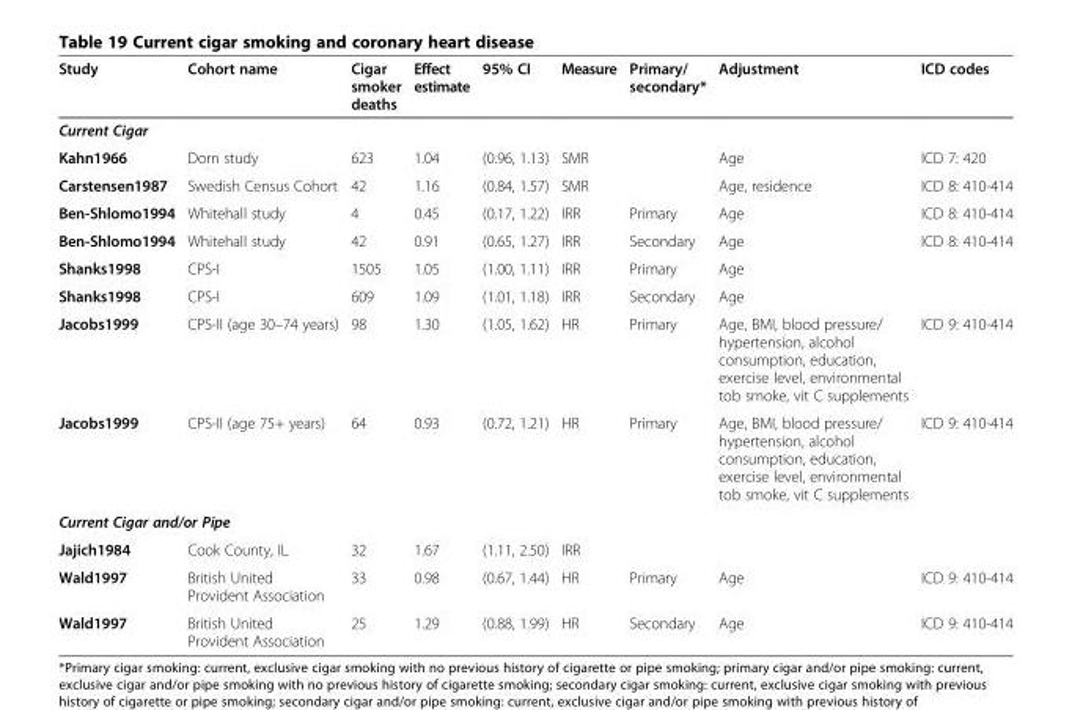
<table><thead><tr><td>Study</td><td>Cohort name</td><td>Cigar smoker deaths</td><td>Effect estimate</td><td>95% CI</td><td>Measure</td><td>Primary/ secondary*</td><td>Adjustment</td><td>ICD codes</td></tr></thead><tbody><tr><td colspan="9">Current Cigar</td></tr><tr><td>Kahn1966</td><td>Dorn study</td><td>623</td><td>1.04</td><td>(0.96, 1.13)</td><td>SMR</td><td></td><td>Age</td><td>ICD 7: 420</td></tr><tr><td>Carstensen1987</td><td>Swedish Census Cohort</td><td>42</td><td>1.16</td><td>(0.84, 1.57)</td><td>SMR</td><td></td><td>Age, residence</td><td>ICD 8: 410-414</td></tr><tr><td>Ben-Shlomo1994</td><td>Whitehall study</td><td>4</td><td>0.45</td><td>(0.17, 1.22)</td><td>IRR</td><td>Primary</td><td>Age</td><td>ICD 8: 410-414</td></tr><tr><td>Ben-Shlomo1994</td><td>Whitehall study</td><td>42</td><td>0.91</td><td>(0.65, 1.27)</td><td>IRR</td><td>Secondary</td><td>Age</td><td>ICD 8: 410-414</td></tr><tr><td>Shanks1998</td><td>CPS-I</td><td>1505</td><td>1.05</td><td>(1.00, 1.11)</td><td>IRR</td><td>Primary</td><td>Age</td><td></td></tr><tr><td>Shanks1998</td><td>CPS-I</td><td>609</td><td>1.09</td><td>(1.01, 1.18)</td><td>IRR</td><td>Secondary</td><td>Age</td><td></td></tr><tr><td>Jacobs1999</td><td>CPS-II (age 30–74 years)</td><td>98</td><td>1.30</td><td>(1.05, 1.62)</td><td>HR</td><td>Primary</td><td>Age, BMI, blood pressure/ hypertension, alcohol consumption, education, exercise level, environmental tob smoke, vit C supplements</td><td>ICD 9: 410-414</td></tr><tr><td>Jacobs1999</td><td>CPS-II (age 75+ years)</td><td>64</td><td>0.93</td><td>(0.72, 1.21)</td><td>HR</td><td>Primary</td><td>Age, BMI, blood pressure/ hypertension, alcohol consumption, education, exercise level, environmental tob smoke, vit C supplements</td><td>ICD 9: 410-414</td></tr><tr><td colspan="9">Current Cigar and/or Pipe</td></tr><tr><td>Jajich1984</td><td>Cook County, IL</td><td>32</td><td>1.67</td><td>(1.11, 2.50)</td><td>IRR</td><td></td><td></td><td></td></tr><tr><td>Wald1997</td><td>British United Provident Association</td><td>33</td><td>0.98</td><td>(0.67, 1.44)</td><td>HR</td><td>Primary</td><td>Age</td><td>ICD 9: 410-414</td></tr><tr><td>Wald1997</td><td>British United Provident Association</td><td>25</td><td>1.29</td><td>(0.88, 1.99)</td><td>HR</td><td>Secondary</td><td>Age</td><td>ICD 9: 410-414</td></tr></tbody></table>